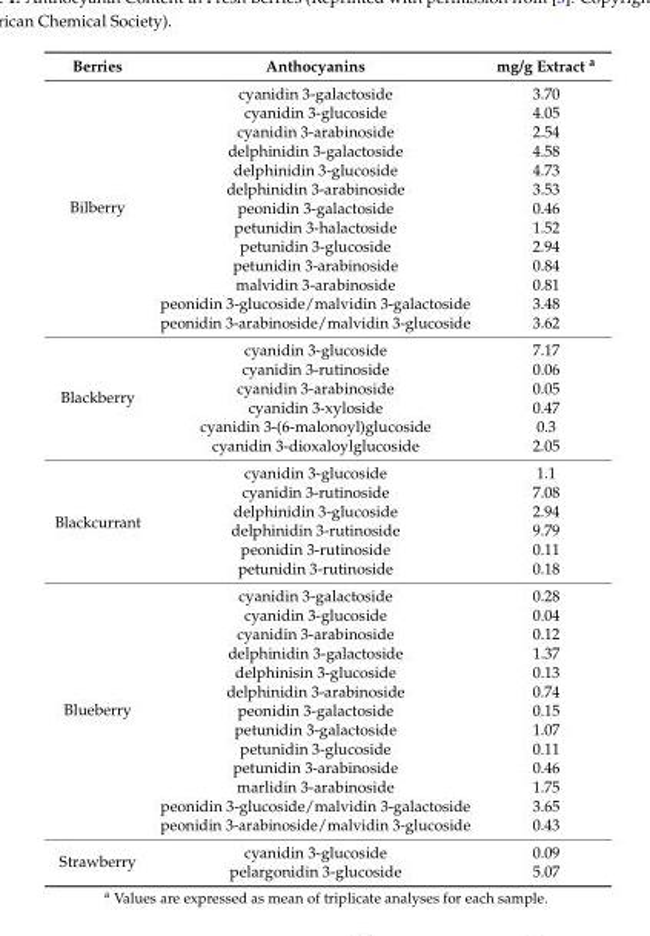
<table><thead><tr><td>Berries</td><td>Anthocyanins</td><td>mg/g Extract <sup>a</sup></td></tr></thead><tbody><tr><td rowspan="13">Bilberry</td><td>cyanidin 3-galactoside</td><td>3.70</td></tr><tr><td>cyanidin 3-glucoside</td><td>4.05</td></tr><tr><td>cyanidin 3-arabinoside</td><td>2.54</td></tr><tr><td>delphinidin 3-galactoside</td><td>4.58</td></tr><tr><td>delphinidin 3-glucoside</td><td>4.73</td></tr><tr><td>delphinidin 3-arabinoside</td><td>3.53</td></tr><tr><td>peonidin 3-galactoside</td><td>0.46</td></tr><tr><td>petunidin 3-halactoside</td><td>1.52</td></tr><tr><td>petunidin 3-glucoside</td><td>2.94</td></tr><tr><td>petunidin 3-arabinoside</td><td>0.84</td></tr><tr><td>malvidin 3-arabinoside</td><td>0.81</td></tr><tr><td>peonidin 3-glucoside/malvidin 3-galactoside</td><td>3.48</td></tr><tr><td>peonidin 3-arabinoside/malvidin 3-glucoside</td><td>3.62</td></tr><tr><td rowspan="6">Blackberry</td><td>cyanidin 3-glucoside</td><td>7.17</td></tr><tr><td>cyanidin 3-rutinoside</td><td>0.06</td></tr><tr><td>cyanidin 3-arabinoside</td><td>0.05</td></tr><tr><td>cyanidin 3-xyloside</td><td>0.47</td></tr><tr><td>cyanidin 3-(6-malonoyl)glucoside</td><td>0.3</td></tr><tr><td>cyanidin 3-dioxaloylglucoside</td><td>2.05</td></tr><tr><td rowspan="6">Blackcurrant</td><td>cyanidin 3-glucoside</td><td>1.1</td></tr><tr><td>cyanidin 3-rutinoside</td><td>7.08</td></tr><tr><td>delphinidin 3-glucoside</td><td>2.94</td></tr><tr><td>delphinidin 3-rutinoside</td><td>9.79</td></tr><tr><td>peonidin 3-rutinoside</td><td>0.11</td></tr><tr><td>petunidin 3-rutinoside</td><td>0.18</td></tr><tr><td rowspan="13">Blueberry</td><td>cyanidin 3-galactoside</td><td>0.28</td></tr><tr><td>cyanidin 3-glucoside</td><td>0.04</td></tr><tr><td>cyanidin 3-arabinoside</td><td>0.12</td></tr><tr><td>delphinidin 3-galactoside</td><td>1.37</td></tr><tr><td>delphinisin 3-glucoside</td><td>0.13</td></tr><tr><td>delphinidin 3-arabinoside</td><td>0.74</td></tr><tr><td>peonidin 3-galactoside</td><td>0.15</td></tr><tr><td>petunidin 3-galactoside</td><td>1.07</td></tr><tr><td>petunidin 3-glucoside</td><td>0.11</td></tr><tr><td>petunidin 3-arabinoside</td><td>0.46</td></tr><tr><td>marlidin 3-arabinoside</td><td>1.75</td></tr><tr><td>peonidin 3-glucoside/malvidin 3-galactoside</td><td>3.65</td></tr><tr><td>peonidin 3-arabinoside/malvidin 3-glucoside</td><td>0.43</td></tr><tr><td rowspan="2">Strawberry</td><td>cyanidin 3-glucoside</td><td>0.09</td></tr><tr><td>pelargonidin 3-glucoside</td><td>5.07</td></tr></tbody></table>